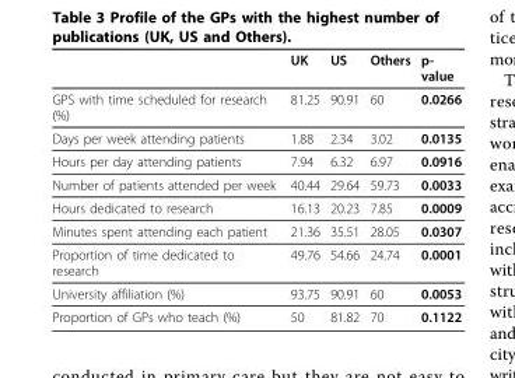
<table><thead><tr><td></td><td>UK</td><td>US</td><td>Others</td><td>p- value</td></tr></thead><tbody><tr><td>GPS with time scheduled for research (%)</td><td>81.25</td><td>90.91</td><td>60</td><td>0.0266</td></tr><tr><td>Days per week attending patients</td><td>1.88</td><td>2.34</td><td>3.02</td><td>0.0135</td></tr><tr><td>Hours per day attending patients</td><td>7.94</td><td>6.32</td><td>6.97</td><td>0.0916</td></tr><tr><td>Number of patients attended per week</td><td>40.44</td><td>29.64</td><td>59.73</td><td>0.0033</td></tr><tr><td>Hours dedicated to research</td><td>16.13</td><td>20.23</td><td>7.85</td><td>0.0009</td></tr><tr><td>Minutes spent attending each patient</td><td>21.36</td><td>35.51</td><td>28.05</td><td>0.0307</td></tr><tr><td>Proportion of time dedicated to research</td><td>49.76</td><td>54.66</td><td>24.74</td><td>0.0001</td></tr><tr><td>University affiliation (%)</td><td>93.75</td><td>90.91</td><td>60</td><td>0.0053</td></tr><tr><td>Proportion of GPs who teach (%)</td><td>50</td><td>81.82</td><td>70</td><td>0.1122</td></tr></tbody></table>